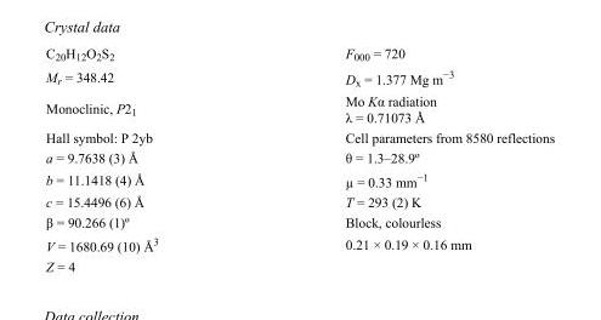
<table><tbody><tr><td>C<sub>20</sub>H<sub>12</sub>O<sub>2</sub>S<sub>2</sub></td><td>F<sub>000</sub> = 720</td></tr><tr><td>M<sub>r</sub> = 348.42</td><td>D<sub>x</sub> = 1.377 Mg m<sup>−3</sup></td></tr><tr><td>Monoclinic, P2<sub>1</sub></td><td>Mo Kα radiation λ = 0.71073 Å</td></tr><tr><td>Hall symbol: P 2yb</td><td>Cell parameters from 8580 reflections</td></tr><tr><td>a = 9.7638 (3) Å</td><td>θ = 1.3–28.9º</td></tr><tr><td>b = 11.1418 (4) Å</td><td>µ = 0.33 mm<sup>−1</sup></td></tr><tr><td>c = 15.4496 (6) Å</td><td>T = 293 (2) K</td></tr><tr><td>β = 90.266 (1)º</td><td>Block, colourless</td></tr><tr><td>V = 1680.69 (10) Å<sup>3</sup></td><td>0.21 × 0.19 × 0.16 mm</td></tr><tr><td>Z = 4</td><td></td></tr></tbody></table>